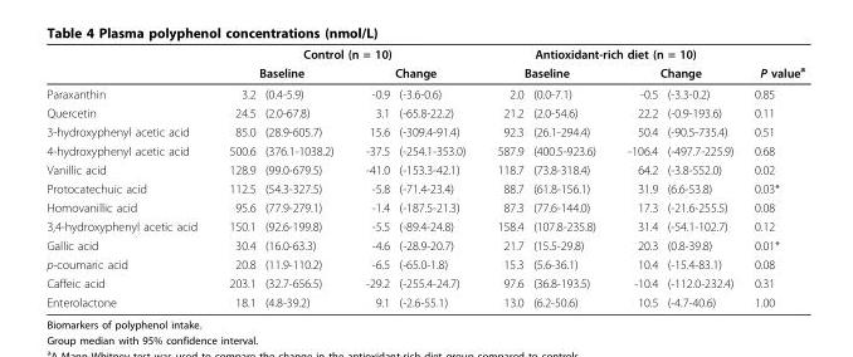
<table><thead><tr><td rowspan="3">Paraxanthin</td><td colspan="4">Control (n = 10)</td><td colspan="4">Antioxidant-rich diet (n = 10)</td><td rowspan="3">P value<sup>a</sup> 0.85</td></tr><tr><td colspan="2">Baseline</td><td colspan="2">Change</td><td colspan="2">Baseline</td><td colspan="2">Change</td></tr><tr><td>3.2</td><td>(0.4-5.9)</td><td>-0.9</td><td>(-3.6-0.6)</td><td>2.0</td><td>(0.0-7.1)</td><td>-0.5</td><td>(-3.3-0.2)</td></tr></thead><tbody><tr><td>Quercetin</td><td>24.5</td><td>(2.0-67.8)</td><td>3.1</td><td>(-65.8-22.2)</td><td>21.2</td><td>(2.0-54.6)</td><td>22.2</td><td>(-0.9-193.6)</td><td>0.11</td></tr><tr><td>3-hydroxyphenyl acetic acid</td><td>85.0</td><td>(28.9-605.7)</td><td>15.6</td><td>(-309.4-91.4)</td><td>92.3</td><td>(26.1-294.4)</td><td>50.4</td><td>(-90.5-735.4)</td><td>0.51</td></tr><tr><td>4-hydroxyphenyl acetic acid</td><td>500.6</td><td>(376.1-1038.2)</td><td>-37.5</td><td>(-254.1-353.0)</td><td>587.9</td><td>(400.5-923.6)</td><td>-106.4</td><td>(-497.7-225.9)</td><td>0.68</td></tr><tr><td>Vanillic acid</td><td>128.9</td><td>(99.0-679.5)</td><td>-41.0</td><td>(-153.3-42.1)</td><td>118.7</td><td>(73.8-318.4)</td><td>64.2</td><td>(-3.8-552.0)</td><td>0.02</td></tr><tr><td>Protocatechuic acid</td><td>112.5</td><td>(54.3-327.5)</td><td>-5.8</td><td>(-71.4-23.4)</td><td>88.7</td><td>(61.8-156.1)</td><td>31.9</td><td>(6.6-53.8)</td><td>0.03*</td></tr><tr><td>Homovanillic acid</td><td>95.6</td><td>(77.9-279.1)</td><td>-1.4</td><td>(-187.5-21.3)</td><td>87.3</td><td>(77.6-144.0)</td><td>17.3</td><td>(-21.6-255.5)</td><td>0.08</td></tr><tr><td>3,4-hydroxyphenyl acetic acid</td><td>150.1</td><td>(92.6-199.8)</td><td>-5.5</td><td>(-89.4-24.8)</td><td>158.4</td><td>(107.8-235.8)</td><td>31.4</td><td>(-54.1-102.7)</td><td>0.12</td></tr><tr><td>Gallic acid</td><td>30.4</td><td>(16.0-63.3)</td><td>-4.6</td><td>(-28.9-20.7)</td><td>21.7</td><td>(15.5-29.8)</td><td>20.3</td><td>(0.8-39.8)</td><td>0.01*</td></tr><tr><td>p-coumaric acid</td><td>20.8</td><td>(11.9-110.2)</td><td>-6.5</td><td>(-65.0-1.8)</td><td>15.3</td><td>(5.6-36.1)</td><td>10.4</td><td>(-15.4-83.1)</td><td>0.08</td></tr><tr><td>Caffeic acid</td><td>203.1</td><td>(32.7-656.5)</td><td>-29.2</td><td>(-255.4-24.7)</td><td>97.6</td><td>(36.8-193.5)</td><td>-10.4</td><td>(-112.0-232.4)</td><td>0.31</td></tr><tr><td>Enterolactone</td><td>18.1</td><td>(4.8-39.2)</td><td>9.1</td><td>(-2.6-55.1)</td><td>13.0</td><td>(6.2-50.6)</td><td>10.5</td><td>(-4.7-40.6)</td><td>1.00</td></tr></tbody></table>